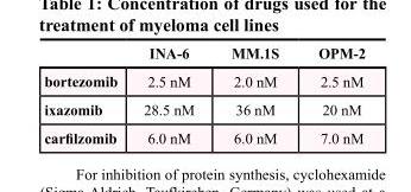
<table><thead><tr><td></td><td>INA-6</td><td>MM.1S</td><td>OPM-2</td></tr></thead><tbody><tr><td>bortezomib</td><td>2.5 nM</td><td>2.0 nM</td><td>2.5 nM</td></tr><tr><td>ixazomib</td><td>28.5 nM</td><td>36 nM</td><td>20 nM</td></tr><tr><td>carfilzomib</td><td>6.0 nM</td><td>6.0 nM</td><td>7.0 nM</td></tr></tbody></table>